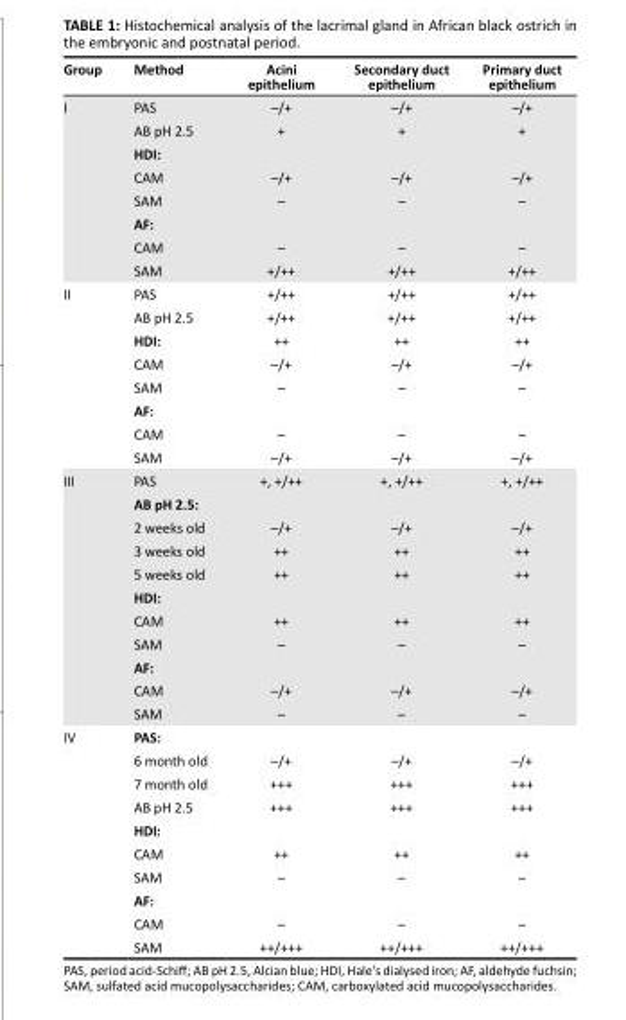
<table><thead><tr><td>Group</td><td>Method</td><td>Acini epithelium</td><td>Secondary duct epithelium</td><td>Primary duct epithelium</td></tr></thead><tbody><tr><td rowspan="8">I</td><td>PAS</td><td>–/+</td><td>–/+</td><td>–/+</td></tr><tr><td>AB pH 2.5</td><td>+</td><td>+</td><td>+</td></tr><tr><td>HDI:</td><td></td><td></td><td></td></tr><tr><td>CAM</td><td>–/+</td><td>–/+</td><td>–/+</td></tr><tr><td>SAM</td><td>–</td><td>–</td><td>–</td></tr><tr><td>AF:</td><td></td><td></td><td></td></tr><tr><td>CAM</td><td>–</td><td>–</td><td>–</td></tr><tr><td>SAM</td><td>+/++</td><td>+/++</td><td>+/++</td></tr><tr><td rowspan="8">II</td><td>PAS</td><td>+/++</td><td>+/++</td><td>+/++</td></tr><tr><td>AB pH 2.5</td><td>+/++</td><td>+/++</td><td>+/++</td></tr><tr><td>HDI:</td><td>++</td><td>++</td><td>++</td></tr><tr><td>CAM</td><td>–/+</td><td>–/+</td><td>–/+</td></tr><tr><td>SAM</td><td>–</td><td>–</td><td>–</td></tr><tr><td>AF:</td><td></td><td></td><td></td></tr><tr><td>CAM</td><td>–</td><td>–</td><td>–</td></tr><tr><td>SAM</td><td>–/+</td><td>–/+</td><td>–/+</td></tr><tr><td rowspan="11">III</td><td>PAS</td><td>+, +/++</td><td>+, +/++</td><td>+, +/++</td></tr><tr><td>AB pH 2.5:</td><td></td><td></td><td></td></tr><tr><td>2 weeks old</td><td>–/+</td><td>–/+</td><td>–/+</td></tr><tr><td>3 weeks old</td><td>++</td><td>++</td><td>++</td></tr><tr><td>5 weeks old</td><td>++</td><td>++</td><td>++</td></tr><tr><td>HDI:</td><td></td><td></td><td></td></tr><tr><td>CAM</td><td>++</td><td>++</td><td>++</td></tr><tr><td>SAM</td><td>–</td><td>–</td><td>–</td></tr><tr><td>AF:</td><td></td><td></td><td></td></tr><tr><td>CAM</td><td>–/+</td><td>–/+</td><td>–/+</td></tr><tr><td>SAM</td><td>–</td><td>–</td><td>–</td></tr><tr><td rowspan="10">IV</td><td>PAS:</td><td></td><td></td><td></td></tr><tr><td>6 month old</td><td>–/+</td><td>–/+</td><td>–/+</td></tr><tr><td>7 month old</td><td>+++</td><td>+++</td><td>+++</td></tr><tr><td>AB pH 2.5</td><td>+++</td><td>+++</td><td>+++</td></tr><tr><td>HDI:</td><td></td><td></td><td></td></tr><tr><td>CAM</td><td>++</td><td>++</td><td>++</td></tr><tr><td>SAM</td><td>–</td><td>–</td><td>–</td></tr><tr><td>AF:</td><td></td><td></td><td></td></tr><tr><td>CAM</td><td>–</td><td>–</td><td>–</td></tr><tr><td>SAM</td><td>++/+++</td><td>++/+++</td><td>++/+++</td></tr></tbody></table>